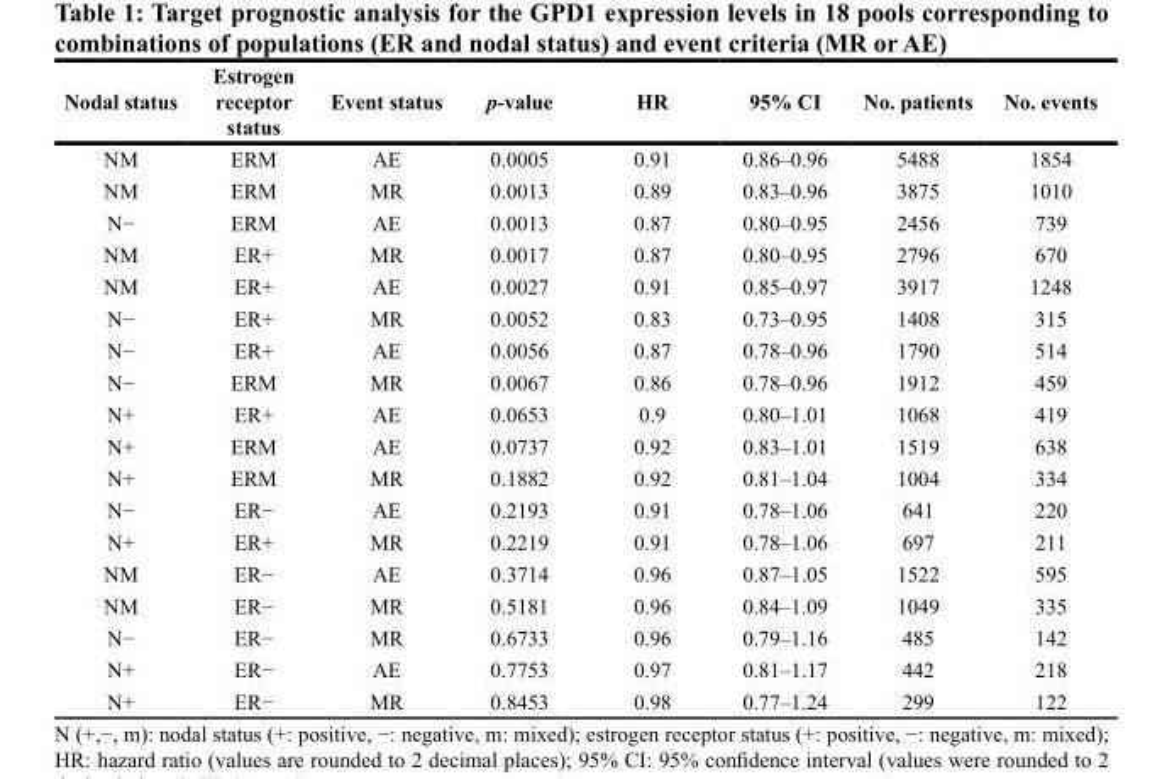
<table><thead><tr><td>Nodal status</td><td>Estrogen receptor status</td><td>Event status</td><td>p-value</td><td>HR</td><td>95% CI</td><td>No. patients</td><td>No. events</td></tr></thead><tbody><tr><td>NM</td><td>ERM</td><td>AE</td><td>0.0005</td><td>0.91</td><td>0.86–0.96</td><td>5488</td><td>1854</td></tr><tr><td>NM</td><td>ERM</td><td>MR</td><td>0.0013</td><td>0.89</td><td>0.83–0.96</td><td>3875</td><td>1010</td></tr><tr><td>N−</td><td>ERM</td><td>AE</td><td>0.0013</td><td>0.87</td><td>0.80–0.95</td><td>2456</td><td>739</td></tr><tr><td>NM</td><td>ER+</td><td>MR</td><td>0.0017</td><td>0.87</td><td>0.80–0.95</td><td>2796</td><td>670</td></tr><tr><td>NM</td><td>ER+</td><td>AE</td><td>0.0027</td><td>0.91</td><td>0.85–0.97</td><td>3917</td><td>1248</td></tr><tr><td>N−</td><td>ER+</td><td>MR</td><td>0.0052</td><td>0.83</td><td>0.73–0.95</td><td>1408</td><td>315</td></tr><tr><td>N−</td><td>ER+</td><td>AE</td><td>0.0056</td><td>0.87</td><td>0.78–0.96</td><td>1790</td><td>514</td></tr><tr><td>N−</td><td>ERM</td><td>MR</td><td>0.0067</td><td>0.86</td><td>0.78–0.96</td><td>1912</td><td>459</td></tr><tr><td>N+</td><td>ER+</td><td>AE</td><td>0.0653</td><td>0.9</td><td>0.80–1.01</td><td>1068</td><td>419</td></tr><tr><td>N+</td><td>ERM</td><td>AE</td><td>0.0737</td><td>0.92</td><td>0.83–1.01</td><td>1519</td><td>638</td></tr><tr><td>N+</td><td>ERM</td><td>MR</td><td>0.1882</td><td>0.92</td><td>0.81–1.04</td><td>1004</td><td>334</td></tr><tr><td>N−</td><td>ER−</td><td>AE</td><td>0.2193</td><td>0.91</td><td>0.78–1.06</td><td>641</td><td>220</td></tr><tr><td>N+</td><td>ER+</td><td>MR</td><td>0.2219</td><td>0.91</td><td>0.78–1.06</td><td>697</td><td>211</td></tr><tr><td>NM</td><td>ER−</td><td>AE</td><td>0.3714</td><td>0.96</td><td>0.87–1.05</td><td>1522</td><td>595</td></tr><tr><td>NM</td><td>ER−</td><td>MR</td><td>0.5181</td><td>0.96</td><td>0.84–1.09</td><td>1049</td><td>335</td></tr><tr><td>N−</td><td>ER−</td><td>MR</td><td>0.6733</td><td>0.96</td><td>0.79–1.16</td><td>485</td><td>142</td></tr><tr><td>N+</td><td>ER−</td><td>AE</td><td>0.7753</td><td>0.97</td><td>0.81–1.17</td><td>442</td><td>218</td></tr><tr><td>N+</td><td>ER−</td><td>MR</td><td>0.8453</td><td>0.98</td><td>0.77–1.24</td><td>299</td><td>122</td></tr></tbody></table>